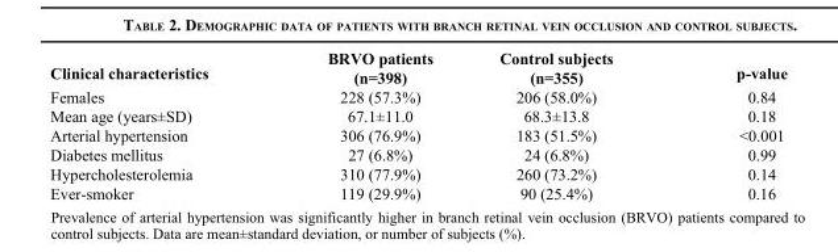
<table><thead><tr><td>Clinical characteristics</td><td>BRVO patients (n=398)</td><td>Control subjects (n=355)</td><td>p-value</td></tr></thead><tbody><tr><td>Females</td><td>228 (57.3%)</td><td>206 (58.0%)</td><td>0.84</td></tr><tr><td>Mean age (years±SD)</td><td>67.1±11.0</td><td>68.3±13.8</td><td>0.18</td></tr><tr><td>Arterial hypertension</td><td>306 (76.9%)</td><td>183 (51.5%)</td><td>&lt;0.001</td></tr><tr><td>Diabetes mellitus</td><td>27 (6.8%)</td><td>24 (6.8%)</td><td>0.99</td></tr><tr><td>Hypercholesterolemia</td><td>310 (77.9%)</td><td>260 (73.2%)</td><td>0.14</td></tr><tr><td>Ever-smoker</td><td>119 (29.9%)</td><td>90 (25.4%)</td><td>0.16</td></tr></tbody></table>